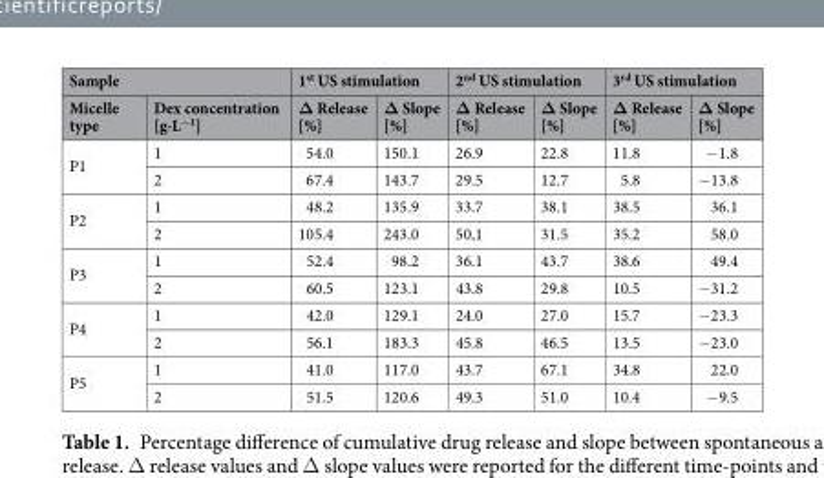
<table><thead><tr><td colspan="2">Sample</td><td colspan="2">1<sup>st</sup> US stimulation</td><td colspan="2">2<sup>nd</sup> US stimulation</td><td colspan="2">3<sup>rd</sup> US stimulation</td></tr><tr><td>Micelle type</td><td>Dex concentration [g·L<sup>−1</sup>]</td><td>Δ Release [%]</td><td>Δ Slope [%]</td><td>Δ Release [%]</td><td>Δ Slope [%]</td><td>Δ Release [%]</td><td>Δ Slope [%]</td></tr></thead><tbody><tr><td rowspan="2">P1</td><td>1</td><td>54.0</td><td>150.1</td><td>26.9</td><td>22.8</td><td>11.8</td><td>−1.8</td></tr><tr><td>2</td><td>67.4</td><td>143.7</td><td>29.5</td><td>12.7</td><td>5.8</td><td>−13.8</td></tr><tr><td rowspan="2">P2</td><td>1</td><td>48.2</td><td>135.9</td><td>33.7</td><td>38.1</td><td>38.5</td><td>36.1</td></tr><tr><td>2</td><td>105.4</td><td>243.0</td><td>50,1</td><td>31.5</td><td>35.2</td><td>58.0</td></tr><tr><td rowspan="2">P3</td><td>1</td><td>52.4</td><td>98.2</td><td>36.1</td><td>43.7</td><td>38.6</td><td>49.4</td></tr><tr><td>2</td><td>60.5</td><td>123.1</td><td>43.8</td><td>29.8</td><td>10.5</td><td>−31.2</td></tr><tr><td rowspan="2">P4</td><td>1</td><td>42.0</td><td>129.1</td><td>24.0</td><td>27.0</td><td>15.7</td><td>−23.3</td></tr><tr><td>2</td><td>56.1</td><td>183.3</td><td>45.8</td><td>46.5</td><td>13.5</td><td>−23.0</td></tr><tr><td rowspan="2">P5</td><td>1</td><td>41.0</td><td>117.0</td><td>43.7</td><td>67.1</td><td>34.8</td><td>22.0</td></tr><tr><td>2</td><td>51.5</td><td>120.6</td><td>49.3</td><td>51.0</td><td>10.4</td><td>−9.5</td></tr></tbody></table>